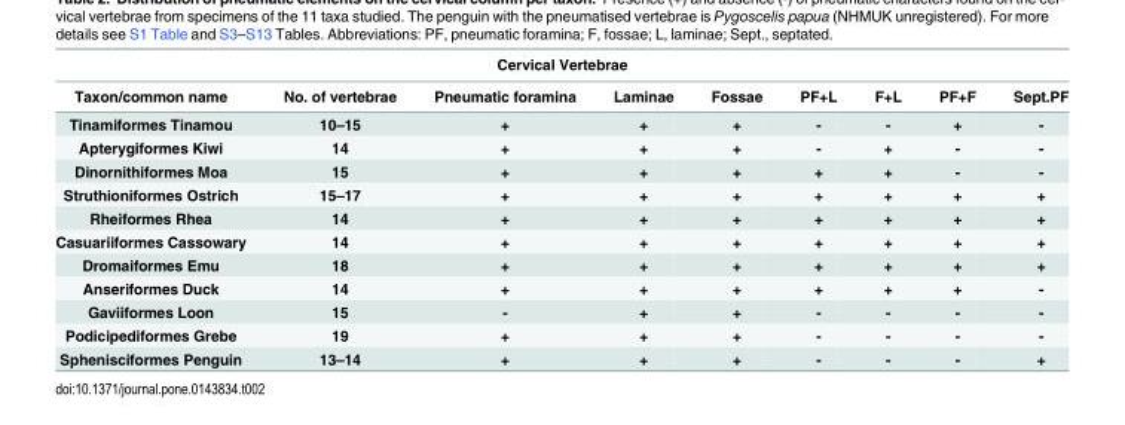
<table><thead><tr><td colspan="9">Cervical Vertebrae</td></tr><tr><td>Taxon/common name</td><td>No. of vertebrae</td><td>Pneumatic foramina</td><td>Laminae</td><td>Fossae</td><td>PF+L</td><td>F+L</td><td>PF+F</td><td>Sept.PF</td></tr></thead><tbody><tr><td>Tinamiformes Tinamou</td><td>10–15</td><td>+</td><td>+</td><td>+</td><td>-</td><td>-</td><td>+</td><td>-</td></tr><tr><td>Apterygiformes Kiwi</td><td>14</td><td>+</td><td>+</td><td>+</td><td>-</td><td>+</td><td>-</td><td>-</td></tr><tr><td>Dinornithiformes Moa</td><td>15</td><td>+</td><td>+</td><td>+</td><td>+</td><td>+</td><td>-</td><td>-</td></tr><tr><td>Struthioniformes Ostrich</td><td>15–17</td><td>+</td><td>+</td><td>+</td><td>+</td><td>+</td><td>+</td><td>+</td></tr><tr><td>Rheiformes Rhea</td><td>14</td><td>+</td><td>+</td><td>+</td><td>+</td><td>+</td><td>+</td><td>+</td></tr><tr><td>Casuariiformes Cassowary</td><td>14</td><td>+</td><td>+</td><td>+</td><td>+</td><td>+</td><td>+</td><td>+</td></tr><tr><td>Dromaiformes Emu</td><td>18</td><td>+</td><td>+</td><td>+</td><td>+</td><td>+</td><td>+</td><td>+</td></tr><tr><td>Anseriformes Duck</td><td>14</td><td>+</td><td>+</td><td>+</td><td>+</td><td>+</td><td>+</td><td>-</td></tr><tr><td>Gaviiformes Loon</td><td>15</td><td>-</td><td>+</td><td>+</td><td>-</td><td>-</td><td>-</td><td>-</td></tr><tr><td>Podicipediformes Grebe</td><td>19</td><td>+</td><td>+</td><td>+</td><td>-</td><td>-</td><td>-</td><td>-</td></tr><tr><td>Sphenisciformes Penguin</td><td>13–14</td><td>+</td><td>+</td><td>+</td><td>-</td><td>-</td><td>-</td><td>+</td></tr></tbody></table>